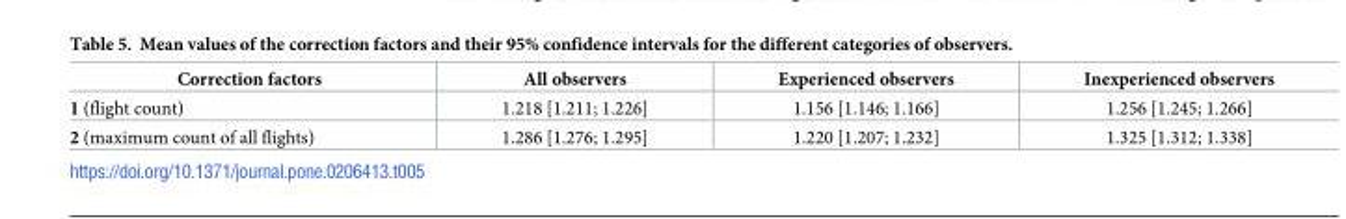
<table><thead><tr><td>Correction factors</td><td>All observers</td><td>Experienced observers</td><td>Inexperienced observers</td></tr></thead><tbody><tr><td>1 (flight count)</td><td>1.218 [1.211; 1.226]</td><td>1.156 [1.146; 1.166]</td><td>1.256 [1.245; 1.266]</td></tr><tr><td>2 (maximum count of all flights)</td><td>1.286 [1.276; 1.295]</td><td>1.220 [1.207; 1.232]</td><td>1.325 [1.312; 1.338]</td></tr></tbody></table>